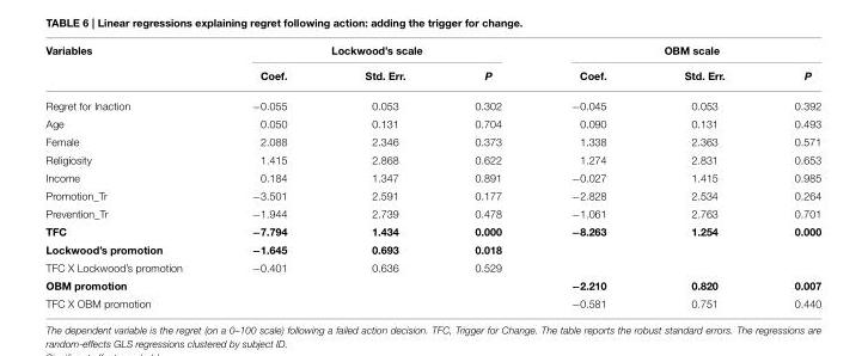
<table><thead><tr><td rowspan="2">Variables</td><td colspan="3">Lockwood’s scale</td><td colspan="3">OBM scale</td></tr><tr><td>Coef.</td><td>Std. Err.</td><td>P</td><td>Coef.</td><td>Std. Err.</td><td>P</td></tr></thead><tbody><tr><td>Regret for Inaction</td><td>−0.055</td><td>0.053</td><td>0.302</td><td>−0.045</td><td>0.053</td><td>0.392</td></tr><tr><td>Age</td><td>0.050</td><td>0.131</td><td>0.704</td><td>0.090</td><td>0.131</td><td>0.493</td></tr><tr><td>Female</td><td>2.088</td><td>2.346</td><td>0.373</td><td>1.338</td><td>2.363</td><td>0.571</td></tr><tr><td>Religiosity</td><td>1.415</td><td>2.868</td><td>0.622</td><td>1.274</td><td>2.831</td><td>0.653</td></tr><tr><td>Income</td><td>0.184</td><td>1.347</td><td>0.891</td><td>−0.027</td><td>1.415</td><td>0.985</td></tr><tr><td>Promotion_Tr</td><td>−3.501</td><td>2.591</td><td>0.177</td><td>−2.828</td><td>2.534</td><td>0.264</td></tr><tr><td>Prevention_Tr</td><td>−1.944</td><td>2.739</td><td>0.478</td><td>−1.061</td><td>2.763</td><td>0.701</td></tr><tr><td>TFC</td><td>−7.794</td><td>1.434</td><td>0.000</td><td>−8.263</td><td>1.254</td><td>0.000</td></tr><tr><td>Lockwood’s promotion</td><td>−1.645</td><td>0.693</td><td>0.018</td><td></td><td></td><td></td></tr><tr><td>TFC X Lockwood’s promotion</td><td>−0.401</td><td>0.636</td><td>0.529</td><td></td><td></td><td></td></tr><tr><td>OBM promotion</td><td></td><td></td><td></td><td>−2.210</td><td>0.820</td><td>0.007</td></tr><tr><td>TFC X OBM promotion</td><td></td><td></td><td></td><td>−0.581</td><td>0.751</td><td>0.440</td></tr></tbody></table>